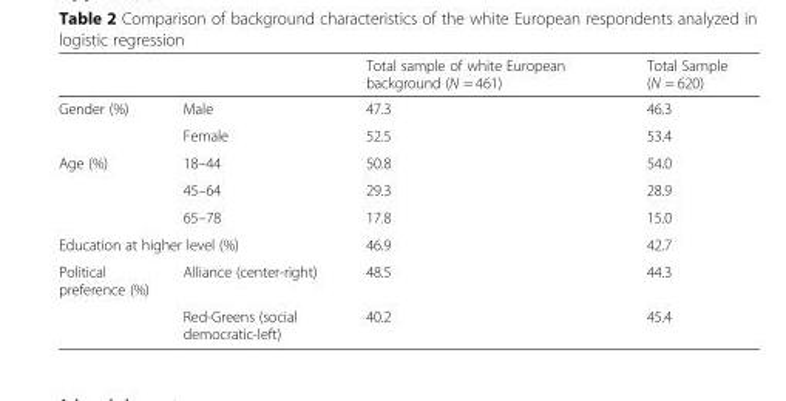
<table><thead><tr><td></td><td></td><td>Total sample of white European background (N = 461)</td><td>Total Sample (N = 620)</td></tr></thead><tbody><tr><td rowspan="2">Gender (%)</td><td>Male</td><td>47.3</td><td>46.3</td></tr><tr><td>Female</td><td>52.5</td><td>53.4</td></tr><tr><td rowspan="3">Age (%)</td><td>18–44</td><td>50.8</td><td>54.0</td></tr><tr><td>45–64</td><td>29.3</td><td>28.9</td></tr><tr><td>65–78</td><td>17.8</td><td>15.0</td></tr><tr><td colspan="2">Education at higher level (%)</td><td>46.9</td><td>42.7</td></tr><tr><td rowspan="2">Political preference (%)</td><td>Alliance (center-right)</td><td>48.5</td><td>44.3</td></tr><tr><td>Red-Greens (social democratic-left)</td><td>40.2</td><td>45.4</td></tr></tbody></table>